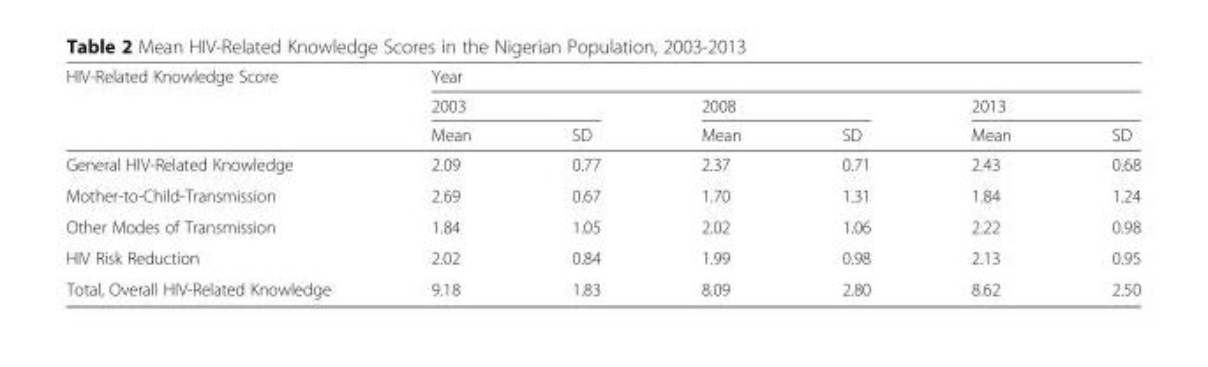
<table><thead><tr><td rowspan="3">HIV-Related Knowledge Score</td><td colspan="6">Year</td></tr><tr><td colspan="2">2003</td><td colspan="2">2008</td><td colspan="2">2013</td></tr><tr><td>Mean</td><td>SD</td><td>Mean</td><td>SD</td><td>Mean</td><td>SD</td></tr></thead><tbody><tr><td>General HIV-Related Knowledge</td><td>2.09</td><td>0.77</td><td>2.37</td><td>0.71</td><td>2.43</td><td>0.68</td></tr><tr><td>Mother-to-Child-Transmission</td><td>2.69</td><td>0.67</td><td>1.70</td><td>1.31</td><td>1.84</td><td>1.24</td></tr><tr><td>Other Modes of Transmission</td><td>1.84</td><td>1.05</td><td>2.02</td><td>1.06</td><td>2.22</td><td>0.98</td></tr><tr><td>HIV Risk Reduction</td><td>2.02</td><td>0.84</td><td>1.99</td><td>0.98</td><td>2.13</td><td>0.95</td></tr><tr><td>Total, Overall HIV-Related Knowledge</td><td>9.18</td><td>1.83</td><td>8.09</td><td>2.80</td><td>8.62</td><td>2.50</td></tr></tbody></table>